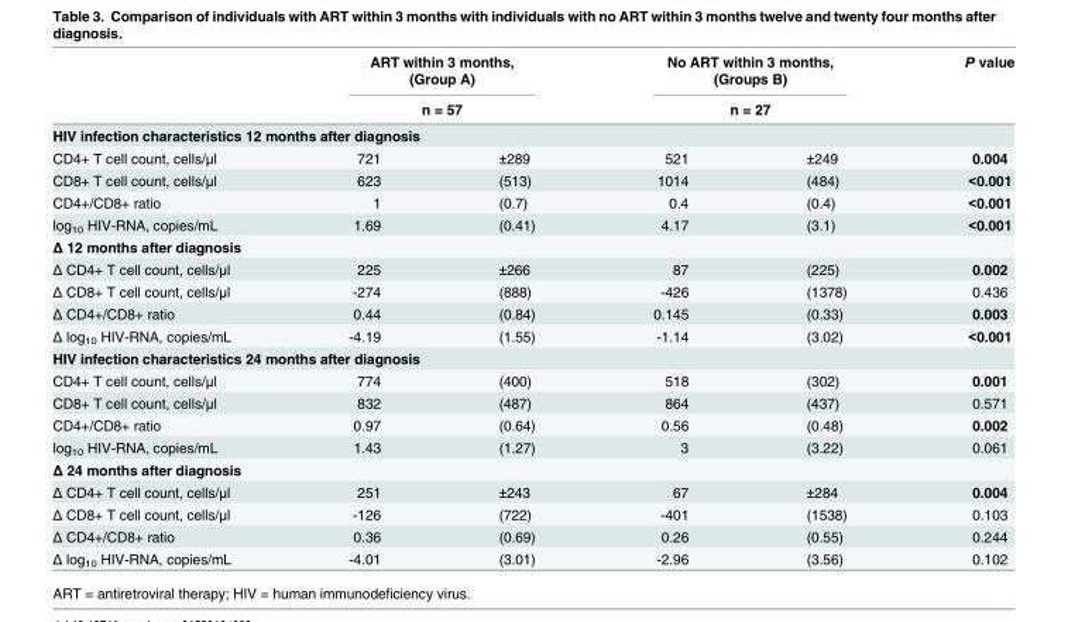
<table><thead><tr><td rowspan="2"></td><td rowspan="2" colspan="2">ART within 3 months, (Group A) n = 57</td><td rowspan="2" colspan="2">No ART within 3 months, (Groups B) n = 27</td><td rowspan="2">P value</td></tr><tr></tr><tr><td colspan="6">HIV infection characteristics 12 months after diagnosis</td></tr><tr><td>CD4+ T cell count, cells/μl</td><td>721</td><td>±289</td><td>521</td><td>±249</td><td>0.004</td></tr></thead><tbody><tr><td>CD8+ T cell count, cells/μl</td><td>623</td><td>(513)</td><td>1014</td><td>(484)</td><td>&lt;0.001</td></tr><tr><td>CD4+/CD8+ ratio</td><td>1</td><td>(0.7)</td><td>0.4</td><td>(0.4)</td><td>&lt;0.001</td></tr><tr><td>log<sub>10</sub> HIV-RNA, copies/mL</td><td>1.69</td><td>(0.41)</td><td>4.17</td><td>(3.1)</td><td>&lt;0.001</td></tr><tr><td colspan="6">Δ 12 months after diagnosis</td></tr><tr><td>Δ CD4+ T cell count, cells/μl</td><td>225</td><td>±266</td><td>87</td><td>(225)</td><td>0.002</td></tr><tr><td>Δ CD8+ T cell count, cells/μl</td><td>-274</td><td>(888)</td><td>-426</td><td>(1378)</td><td>0.436</td></tr><tr><td>Δ CD4+/CD8+ ratio</td><td>0.44</td><td>(0.84)</td><td>0.145</td><td>(0.33)</td><td>0.003</td></tr><tr><td>Δ log<sub>10</sub> HIV-RNA, copies/mL</td><td>-4.19</td><td>(1.55)</td><td>-1.14</td><td>(3.02)</td><td>&lt;0.001</td></tr><tr><td colspan="6">HIV infection characteristics 24 months after diagnosis</td></tr><tr><td>CD4+ T cell count, cells/μl</td><td>774</td><td>(400)</td><td>518</td><td>(302)</td><td>0.001</td></tr><tr><td>CD8+ T cell count, cells/μl</td><td>832</td><td>(487)</td><td>864</td><td>(437)</td><td>0.571</td></tr><tr><td>CD4+/CD8+ ratio</td><td>0.97</td><td>(0.64)</td><td>0.56</td><td>(0.48)</td><td>0.002</td></tr><tr><td>log<sub>10</sub> HIV-RNA, copies/mL</td><td>1.43</td><td>(1.27)</td><td>3</td><td>(3.22)</td><td>0.061</td></tr><tr><td colspan="6">Δ 24 months after diagnosis</td></tr><tr><td>Δ CD4+ T cell count, cells/μl</td><td>251</td><td>±243</td><td>67</td><td>±284</td><td>0.004</td></tr><tr><td>Δ CD8+ T cell count, cells/μl</td><td>-126</td><td>(722)</td><td>-401</td><td>(1538)</td><td>0.103</td></tr><tr><td>Δ CD4+/CD8+ ratio</td><td>0.36</td><td>(0.69)</td><td>0.26</td><td>(0.55)</td><td>0.244</td></tr><tr><td>Δ log<sub>10</sub> HIV-RNA, copies/mL</td><td>-4.01</td><td>(3.01)</td><td>-2.96</td><td>(3.56)</td><td>0.102</td></tr></tbody></table>